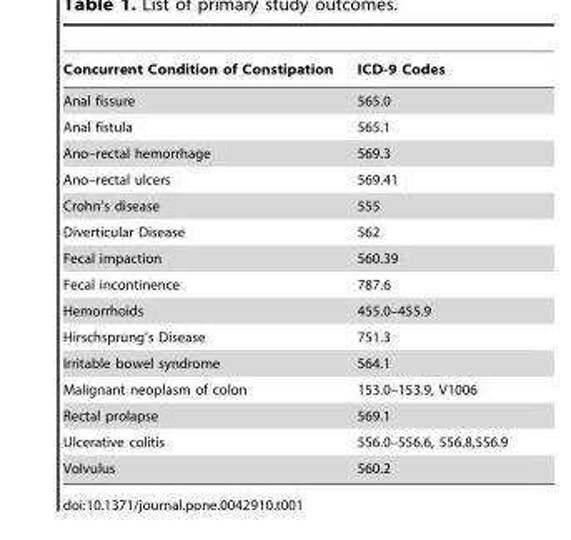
<table><thead><tr><td>Concurrent Condition of Constipation</td><td>ICD-9 Codes</td></tr></thead><tbody><tr><td>Anal fissure</td><td>565.0</td></tr><tr><td>Anal fistula</td><td>565.1</td></tr><tr><td>Ano–rectal hemorrhage</td><td>569.3</td></tr><tr><td>Ano–rectal ulcers</td><td>569.41</td></tr><tr><td>Crohn’s disease</td><td>555</td></tr><tr><td>Diverticular Disease</td><td>562</td></tr><tr><td>Fecal impaction</td><td>560.39</td></tr><tr><td>Fecal incontinence</td><td>787.6</td></tr><tr><td>Hemorrhoids</td><td>455.0–455.9</td></tr><tr><td>Hirschsprung’s Disease</td><td>751.3</td></tr><tr><td>Irritable bowel syndrome</td><td>564.1</td></tr><tr><td>Malignant neoplasm of colon</td><td>153.0–153.9, V1006</td></tr><tr><td>Rectal prolapse</td><td>569.1</td></tr><tr><td>Ulcerative colitis</td><td>556.0–556.6, 556.8,556.9</td></tr><tr><td>Volvulus</td><td>560.2</td></tr></tbody></table>